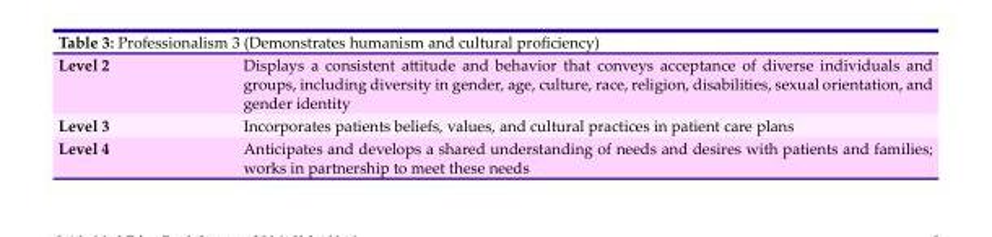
<table><tbody><tr><td>Level 2</td><td>Displays a consistent attitude and behavior that conveys acceptance of diverse individuals and groups, including diversity in gender, age, culture, race, religion, disabilities, sexual orientation, and gender identity</td></tr><tr><td>Level 3</td><td>Incorporates patients beliefs, values, and cultural practices in patient care plans</td></tr><tr><td>Level 4</td><td>Anticipates and develops a shared understanding of needs and desires with patients and families; works in partnership to meet these needs</td></tr></tbody></table>